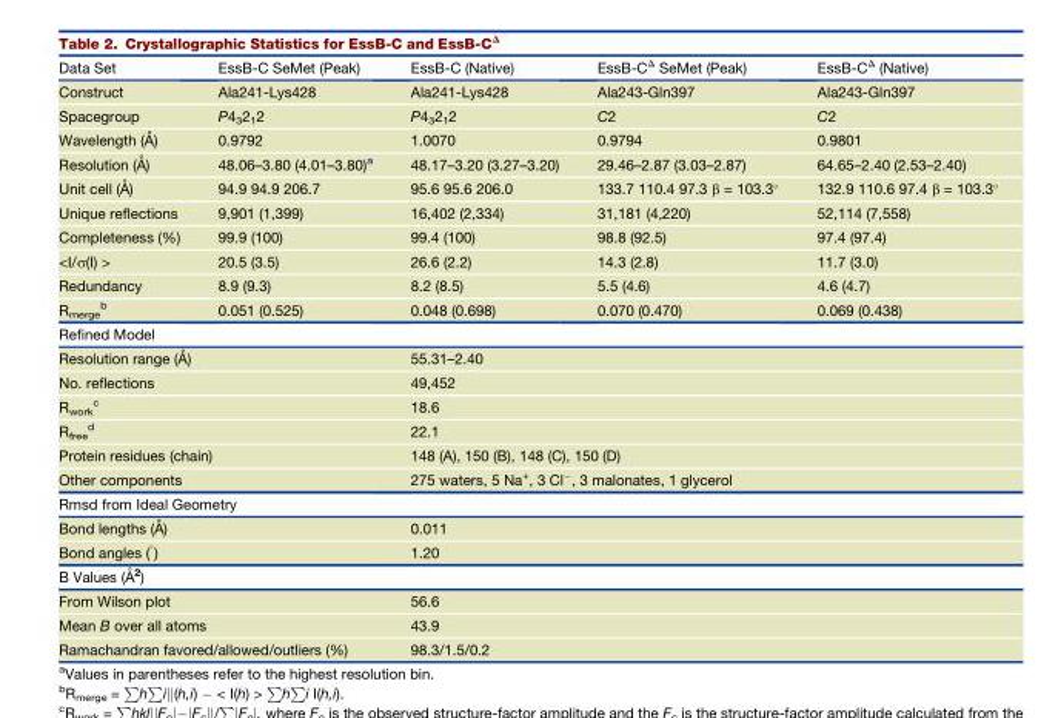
<table><thead><tr><td>Data Set</td><td>EssB-C SeMet (Peak)</td><td>EssB-C (Native)</td><td>EssB-C<sup>Δ</sup> SeMet (Peak)</td><td>EssB-C<sup>Δ</sup> (Native)</td></tr></thead><tbody><tr><td>Construct</td><td>Ala241-Lys428</td><td>Ala241-Lys428</td><td>Ala243-Gln397</td><td>Ala243-Gln397</td></tr><tr><td>Spacegroup</td><td>P4<sub>3</sub>2<sub>1</sub>2</td><td>P4<sub>3</sub>2<sub>1</sub>2</td><td>C2</td><td>C2</td></tr><tr><td>Wavelength (A˚ )</td><td>0.9792</td><td>1.0070</td><td>0.9794</td><td>0.9801</td></tr><tr><td>Resolution (A˚ )</td><td>48.06–3.80 (4.01–3.80)<sup>a</sup></td><td>48.17–3.20 (3.27–3.20)</td><td>29.46–2.87 (3.03–2.87)</td><td>64.65–2.40 (2.53–2.40)</td></tr><tr><td>Unit cell (A˚ )</td><td>94.9 94.9 206.7</td><td>95.6 95.6 206.0</td><td>133.7 110.4 97.3 β = 103.3°</td><td>132.9 110.6 97.4 β = 103.3°</td></tr><tr><td>Unique reflections</td><td>9,901 (1,399)</td><td>16,402 (2,334)</td><td>31,181 (4,220)</td><td>52,114 (7,558)</td></tr><tr><td>Completeness (%)</td><td>99.9 (100)</td><td>99.4 (100)</td><td>98.8 (92.5)</td><td>97.4 (97.4)</td></tr><tr><td>&lt;I/σ(I) &gt;</td><td>20.5 (3.5)</td><td>26.6 (2.2)</td><td>14.3 (2.8)</td><td>11.7 (3.0)</td></tr><tr><td>Redundancy</td><td>8.9 (9.3)</td><td>8.2 (8.5)</td><td>5.5 (4.6)</td><td>4.6 (4.7)</td></tr><tr><td>R<sub>merge</sub> <sup>b</sup></td><td>0.051 (0.525)</td><td>0.048 (0.698)</td><td>0.070 (0.470)</td><td>0.069 (0.438)</td></tr><tr><td colspan="5">Refined Model</td></tr><tr><td colspan="2">Resolution range (A˚ )</td><td colspan="3">55.31–2.40</td></tr><tr><td colspan="2">No. reflections</td><td colspan="3">49,452</td></tr><tr><td colspan="2">R<sub>work</sub> <sup>c</sup></td><td colspan="3">18.6</td></tr><tr><td colspan="2">R<sub>free</sub> <sup>d</sup></td><td colspan="3">22.1</td></tr><tr><td colspan="2">Protein residues (chain)</td><td colspan="3">148 (A), 150 (B), 148 (C), 150 (D)</td></tr><tr><td colspan="2">Other components</td><td colspan="3">275 waters, 5 Na<sup>+</sup>, 3 Cl<sup>−</sup>, 3 malonates, 1 glycerol</td></tr><tr><td colspan="5">Rmsd from Ideal Geometry</td></tr><tr><td colspan="2">Bond lengths (A˚ )</td><td colspan="3">0.011</td></tr><tr><td colspan="2">Bond angles ( °)</td><td colspan="3">1.20</td></tr><tr><td colspan="5">B Values (A˚ 2)</td></tr><tr><td colspan="2">From Wilson plot</td><td colspan="3">56.6</td></tr><tr><td colspan="2">Mean B over all atoms</td><td colspan="3">43.9</td></tr><tr><td colspan="2">Ramachandran favored/allowed/outliers (%)</td><td colspan="3">98.3/1.5/0.2</td></tr></tbody></table>